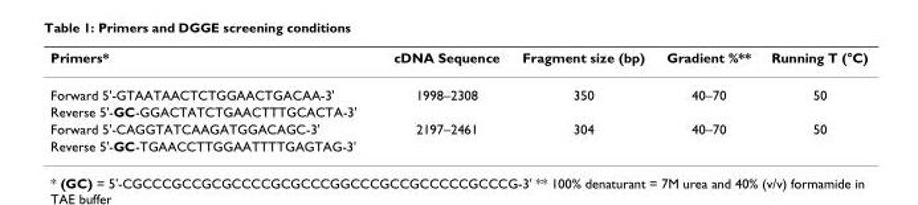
<table><thead><tr><td>Primers*</td><td>cDNA Sequence</td><td>Fragment size (bp)</td><td>Gradient %**</td><td>Running T (°C)</td></tr></thead><tbody><tr><td>Forward 5&#x27;-GTAATAACTCTGGAACTGACAA-3&#x27;</td><td>1998–2308</td><td>350</td><td>40–70</td><td>50</td></tr><tr><td colspan="5">Reverse 5&#x27;-GC-GGACTATCTGAACTTTGCACTA-3&#x27;</td></tr><tr><td>Forward 5&#x27;-CAGGTATCAAGATGGACAGC-3&#x27;</td><td>2197–2461</td><td>304</td><td>40–70</td><td>50</td></tr><tr><td>Reverse 5&#x27;-GC-TGAACCTTGGAATTTTGAGTAG-3&#x27;</td><td></td><td></td><td></td><td></td></tr></tbody></table>